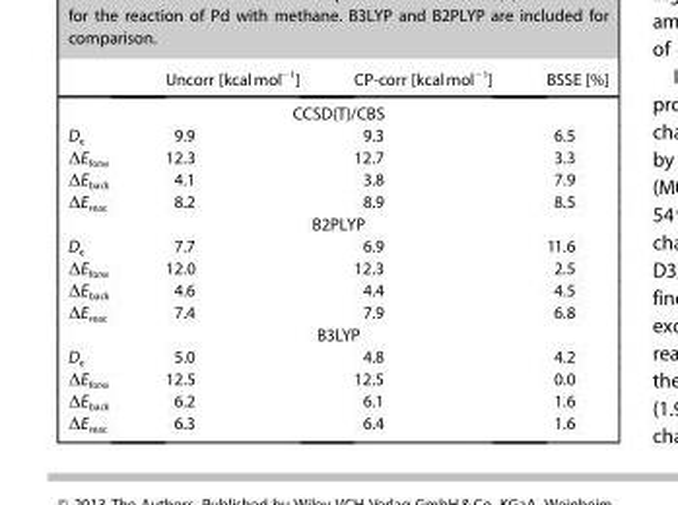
<table><thead><tr><td></td><td>Uncorr [kcalmol<sup>−1</sup>]</td><td>CP-corr [kcalmol<sup>−1</sup>]</td><td>BSSE [%]</td></tr></thead><tbody><tr><td colspan="4">CCSD(T)/CBS</td></tr><tr><td>D<sub>e</sub></td><td>9.9</td><td>9.3</td><td>6.5</td></tr><tr><td>ΔE<sub>forw</sub></td><td>12.3</td><td>12.7</td><td>3.3</td></tr><tr><td>ΔE<sub>back</sub></td><td>4.1</td><td>3.8</td><td>7.9</td></tr><tr><td>ΔE<sub>reac</sub></td><td>8.2</td><td>8.9</td><td>8.5</td></tr><tr><td colspan="4">B2PLYP</td></tr><tr><td>D<sub>e</sub></td><td>7.7</td><td>6.9</td><td>11.6</td></tr><tr><td>ΔE<sub>forw</sub></td><td>12.0</td><td>12.3</td><td>2.5</td></tr><tr><td>ΔE<sub>back</sub></td><td>4.6</td><td>4.4</td><td>4.5</td></tr><tr><td>ΔE<sub>reac</sub></td><td>7.4</td><td>7.9</td><td>6.8</td></tr><tr><td colspan="4">B3LYP</td></tr><tr><td>D<sub>e</sub></td><td>5.0</td><td>4.8</td><td>4.2</td></tr><tr><td>ΔE<sub>forw</sub></td><td>12.5</td><td>12.5</td><td>0.0</td></tr><tr><td>ΔE<sub>back</sub></td><td>6.2</td><td>6.1</td><td>1.6</td></tr><tr><td>ΔE<sub>reac</sub></td><td>6.3</td><td>6.4</td><td>1.6</td></tr></tbody></table>